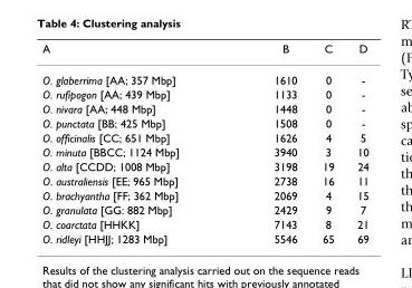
<table><thead><tr><td>A</td><td>B</td><td>C</td><td>D</td></tr></thead><tbody><tr><td>O. glaberrima [AA; 357 Mbp]</td><td>1610</td><td>0</td><td>-</td></tr><tr><td>O. rufipogon [AA; 439 Mbp]</td><td>1133</td><td>0</td><td>-</td></tr><tr><td>O. nivara [AA; 448 Mbp]</td><td>1448</td><td>0</td><td>-</td></tr><tr><td>O. punctata [BB; 425 Mbp]</td><td>1508</td><td>0</td><td>-</td></tr><tr><td>O. officinalis [CC; 651 Mbp]</td><td>1626</td><td>4</td><td>5</td></tr><tr><td>O. minuta [BBCC; 1124 Mbp]</td><td>3940</td><td>3</td><td>10</td></tr><tr><td>O. alta [CCDD; 1008 Mbp]</td><td>3198</td><td>19</td><td>24</td></tr><tr><td>O. australiensis [EE; 965 Mbp]</td><td>2738</td><td>16</td><td>11</td></tr><tr><td>O. brachyantha [FF; 362 Mbp]</td><td>2069</td><td>4</td><td>15</td></tr><tr><td>O. granulata [GG: 882 Mbp]</td><td>2429</td><td>9</td><td>7</td></tr><tr><td>O. coarctata [HHKK]</td><td>7143</td><td>8</td><td>21</td></tr><tr><td>O. ridleyi [HHJJ; 1283 Mbp]</td><td>5546</td><td>65</td><td>69</td></tr></tbody></table>